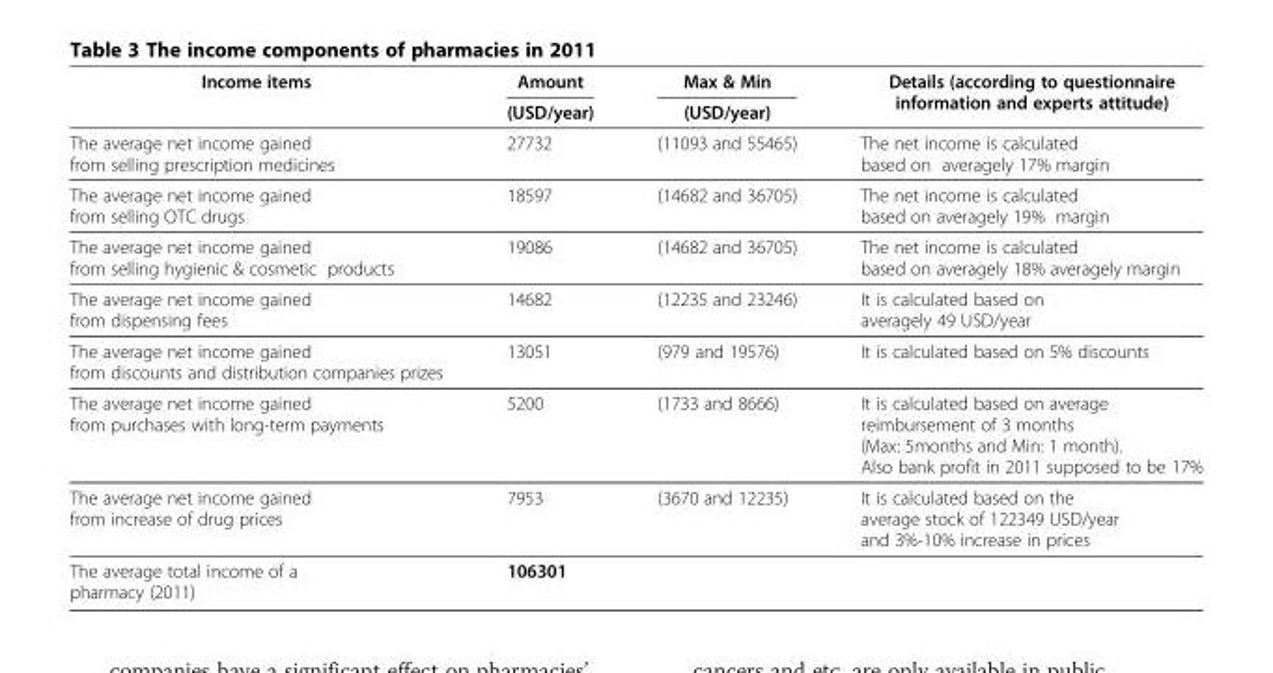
<table><thead><tr><td rowspan="2">Income items</td><td rowspan="2">Amount (USD/year)</td><td rowspan="2">Max &amp; Min (USD/year)</td><td rowspan="2">Details (according to questionnaire information and experts attitude)</td></tr><tr></tr></thead><tbody><tr><td>The average net income gained from selling prescription medicines</td><td>27732</td><td>(11093 and 55465)</td><td>The net income is calculated based on averagely 17% margin</td></tr><tr><td>The average net income gained from selling OTC drugs</td><td>18597</td><td>(14682 and 36705)</td><td>The net income is calculated based on averagely 19% margin</td></tr><tr><td>The average net income gained from selling hygienic &amp; cosmetic products</td><td>19086</td><td>(14682 and 36705)</td><td>The net income is calculated based on averagely 18% averagely margin</td></tr><tr><td>The average net income gained from dispensing fees</td><td>14682</td><td>(12235 and 23246)</td><td>It is calculated based on averagely 49 USD/year</td></tr><tr><td>The average net income gained from discounts and distribution companies prizes</td><td>13051</td><td>(979 and 19576)</td><td>It is calculated based on 5% discounts</td></tr><tr><td>The average net income gained from purchases with long-term payments</td><td>5200</td><td>(1733 and 8666)</td><td>It is calculated based on average reimbursement of 3 months (Max: 5months and Min: 1 month). Also bank profit in 2011 supposed to be 17%</td></tr><tr><td>The average net income gained from increase of drug prices</td><td>7953</td><td>(3670 and 12235)</td><td>It is calculated based on the average stock of 122349 USD/year and 3%-10% increase in prices</td></tr><tr><td>The average total income of a pharmacy (2011)</td><td>106301</td><td></td><td></td></tr></tbody></table>